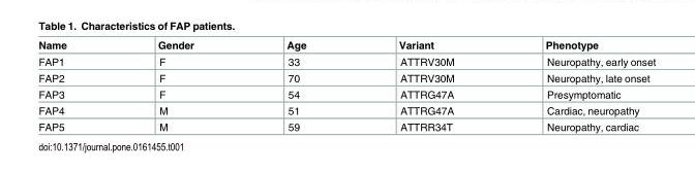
<table><thead><tr><td>Name</td><td>Gender</td><td>Age</td><td>Variant</td><td>Phenotype</td></tr></thead><tbody><tr><td>FAP1</td><td>F</td><td>33</td><td>ATTRV30M</td><td>Neuropathy, early onset</td></tr><tr><td>FAP2</td><td>F</td><td>70</td><td>ATTRV30M</td><td>Neuropathy, late onset</td></tr><tr><td>FAP3</td><td>F</td><td>54</td><td>ATTRG47A</td><td>Presymptomatic</td></tr><tr><td>FAP4</td><td>M</td><td>51</td><td>ATTRG47A</td><td>Cardiac, neuropathy</td></tr><tr><td>FAP5</td><td>M</td><td>59</td><td>ATTRR34T</td><td>Neuropathy, cardiac</td></tr></tbody></table>